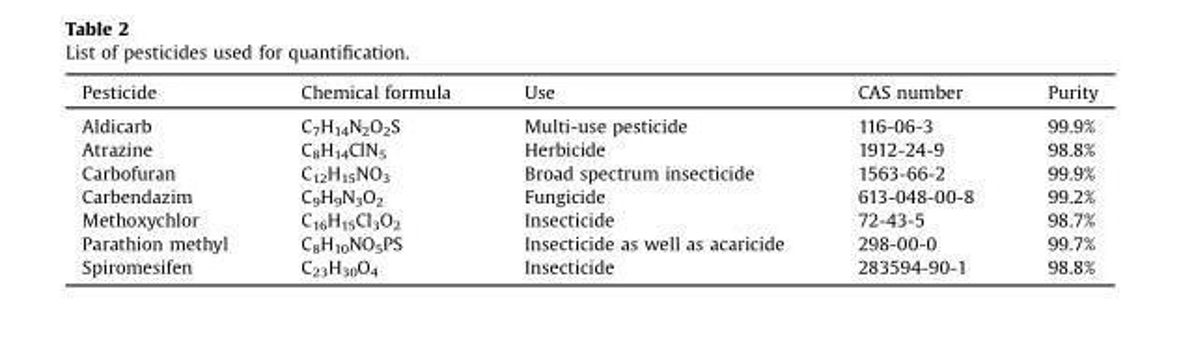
<table><thead><tr><td>Pesticide</td><td>Chemical formula</td><td>Use</td><td>CAS number</td><td>Purity</td></tr></thead><tbody><tr><td>Aldicarb</td><td>C<sub>7</sub>H<sub>14</sub>N<sub>2</sub>O<sub>2</sub>S</td><td>Multi-use pesticide</td><td>116-06-3</td><td>99.9%</td></tr><tr><td>Atrazine</td><td>C<sub>8</sub>H<sub>14</sub>ClN<sub>5</sub></td><td>Herbicide</td><td>1912-24-9</td><td>98.8%</td></tr><tr><td>Carbofuran</td><td>C<sub>12</sub>H<sub>15</sub>NO<sub>3</sub></td><td>Broad spectrum insecticide</td><td>1563-66-2</td><td>99.9%</td></tr><tr><td>Carbendazim</td><td>C<sub>9</sub>H<sub>9</sub>N<sub>3</sub>O<sub>2</sub></td><td>Fungicide</td><td>613-048-00-8</td><td>99.2%</td></tr><tr><td>Methoxychlor</td><td>C<sub>16</sub>H<sub>15</sub>Cl<sub>3</sub>O<sub>2</sub></td><td>Insecticide</td><td>72-43-5</td><td>98.7%</td></tr><tr><td>Parathion methyl</td><td>C<sub>8</sub>H<sub>10</sub>NO<sub>5</sub>PS</td><td>Insecticide as well as acaricide</td><td>298-00-0</td><td>99.7%</td></tr><tr><td>Spiromesifen</td><td>C<sub>23</sub>H<sub>30</sub>O<sub>4</sub></td><td>Insecticide</td><td>283594-90-1</td><td>98.8%</td></tr></tbody></table>